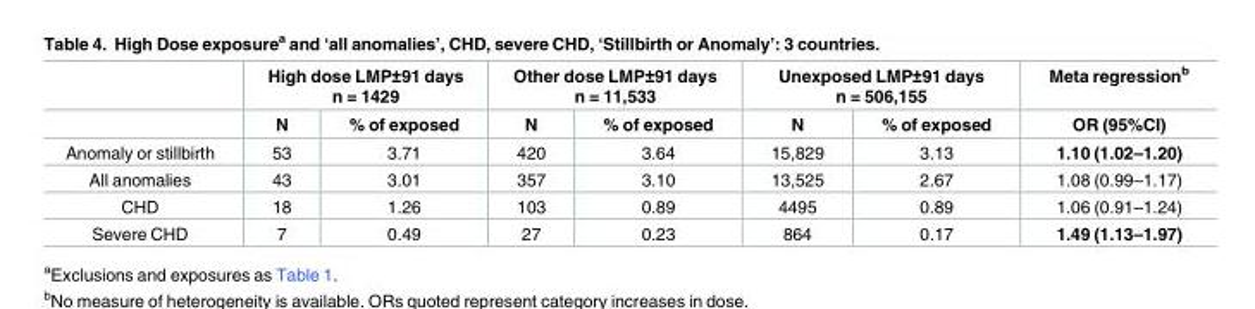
<table><thead><tr><td rowspan="2"></td><td colspan="2">High dose LMP±91 days n = 1429</td><td colspan="2">Other dose LMP±91 days n = 11,533</td><td colspan="2">Unexposed LMP±91 days n = 506,155</td><td rowspan="2">Meta regression<sup>b</sup> OR (95%CI)</td></tr><tr><td>N</td><td>% of exposed</td><td>N</td><td>% of exposed</td><td>N</td><td>% of exposed</td></tr></thead><tbody><tr><td>Anomaly or stillbirth</td><td>53</td><td>3.71</td><td>420</td><td>3.64</td><td>15,829</td><td>3.13</td><td>1.10 (1.02–1.20)</td></tr><tr><td>All anomalies</td><td>43</td><td>3.01</td><td>357</td><td>3.10</td><td>13,525</td><td>2.67</td><td>1.08 (0.99–1.17)</td></tr><tr><td>CHD</td><td>18</td><td>1.26</td><td>103</td><td>0.89</td><td>4495</td><td>0.89</td><td>1.06 (0.91–1.24)</td></tr><tr><td>Severe CHD</td><td>7</td><td>0.49</td><td>27</td><td>0.23</td><td>864</td><td>0.17</td><td>1.49 (1.13–1.97)</td></tr></tbody></table>